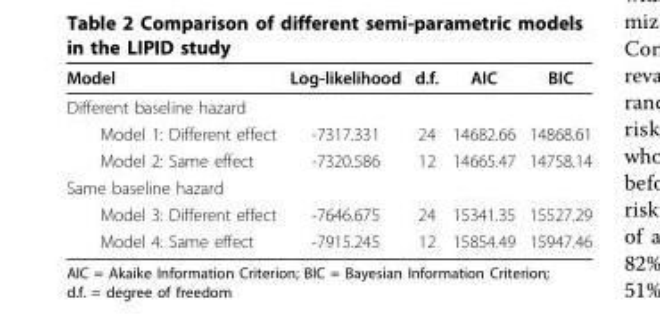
<table><thead><tr><td>Model</td><td>Log-likelihood</td><td>d.f.</td><td>AIC</td><td>BIC</td></tr></thead><tbody><tr><td colspan="5">Different baseline hazard</td></tr><tr><td>Model 1: Different effect</td><td>-7317.331</td><td>24</td><td>14682.66</td><td>14868.61</td></tr><tr><td>Model 2: Same effect</td><td>-7320.586</td><td>12</td><td>14665.47</td><td>14758.14</td></tr><tr><td colspan="5">Same baseline hazard</td></tr><tr><td>Model 3: Different effect</td><td>-7646.675</td><td>24</td><td>15341.35</td><td>15527.29</td></tr><tr><td>Model 4: Same effect</td><td>-7915.245</td><td>12</td><td>15854.49</td><td>15947.46</td></tr></tbody></table>